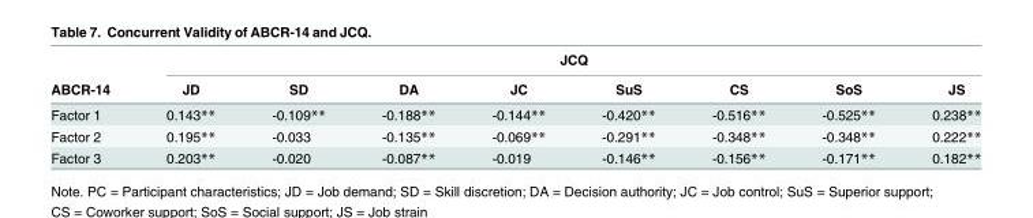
<table><thead><tr><td rowspan="2">ABCR-14</td><td colspan="8">JCQ</td></tr><tr><td>JD</td><td>SD</td><td>DA</td><td>JC</td><td>SuS</td><td>CS</td><td>SoS</td><td>JS</td></tr></thead><tbody><tr><td>Factor 1</td><td>0.143**</td><td>-0.109**</td><td>-0.188**</td><td>-0.144**</td><td>-0.420**</td><td>-0.516**</td><td>-0.525**</td><td>0.238**</td></tr><tr><td>Factor 2</td><td>0.195**</td><td>-0.033</td><td>-0.135**</td><td>-0.069**</td><td>-0.291**</td><td>-0.348**</td><td>-0.348**</td><td>0.222**</td></tr><tr><td>Factor 3</td><td>0.203**</td><td>-0.020</td><td>-0.087**</td><td>-0.019</td><td>-0.146**</td><td>-0.156**</td><td>-0.171**</td><td>0.182**</td></tr></tbody></table>